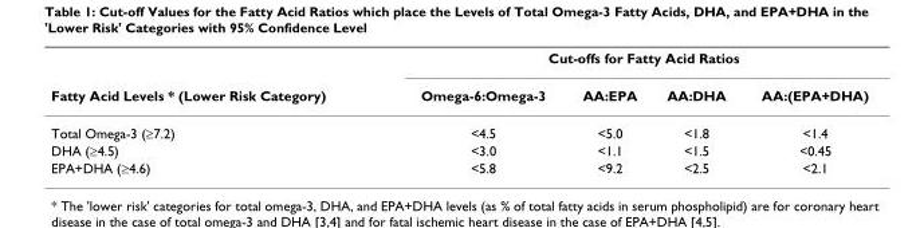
<table><thead><tr><td rowspan="2">Fatty Acid Levels * (Lower Risk Category)</td><td colspan="4">Cut-offs for Fatty Acid Ratios</td></tr><tr><td>Omega-6:Omega-3</td><td>AA:EPA</td><td>AA:DHA</td><td>AA:(EPA+DHA)</td></tr></thead><tbody><tr><td>Total Omega-3 (≥7.2)</td><td>&lt;4.5</td><td>&lt;5.0</td><td>&lt;1.8</td><td>&lt;1.4</td></tr><tr><td>DHA (≥4.5)</td><td>&lt;3.0</td><td>&lt;1.1</td><td>&lt;1.5</td><td>&lt;0.45</td></tr><tr><td>EPA+DHA (≥4.6)</td><td>&lt;5.8</td><td>&lt;9.2</td><td>&lt;2.5</td><td>&lt;2.1</td></tr></tbody></table>